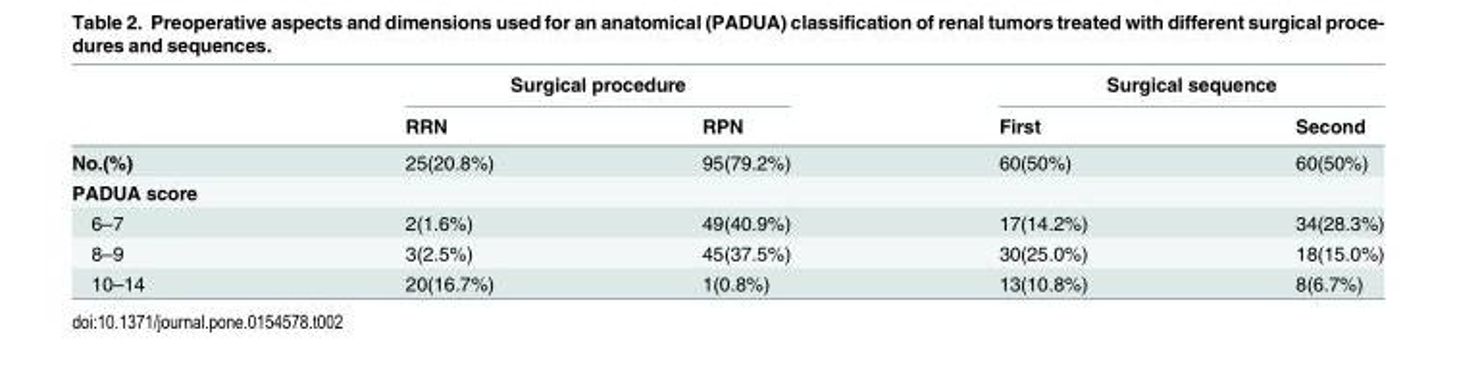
<table><thead><tr><td rowspan="2"></td><td colspan="2">Surgical procedure</td><td colspan="2">Surgical sequence</td></tr><tr><td>RRN</td><td>RPN</td><td>First</td><td>Second</td></tr></thead><tbody><tr><td>No.(%)</td><td>25(20.8%)</td><td>95(79.2%)</td><td>60(50%)</td><td>60(50%)</td></tr><tr><td colspan="5">PADUA score</td></tr><tr><td>6–7</td><td>2(1.6%)</td><td>49(40.9%)</td><td>17(14.2%)</td><td>34(28.3%)</td></tr><tr><td>8–9</td><td>3(2.5%)</td><td>45(37.5%)</td><td>30(25.0%)</td><td>18(15.0%)</td></tr><tr><td>10–14</td><td>20(16.7%)</td><td>1(0.8%)</td><td>13(10.8%)</td><td>8(6.7%)</td></tr></tbody></table>